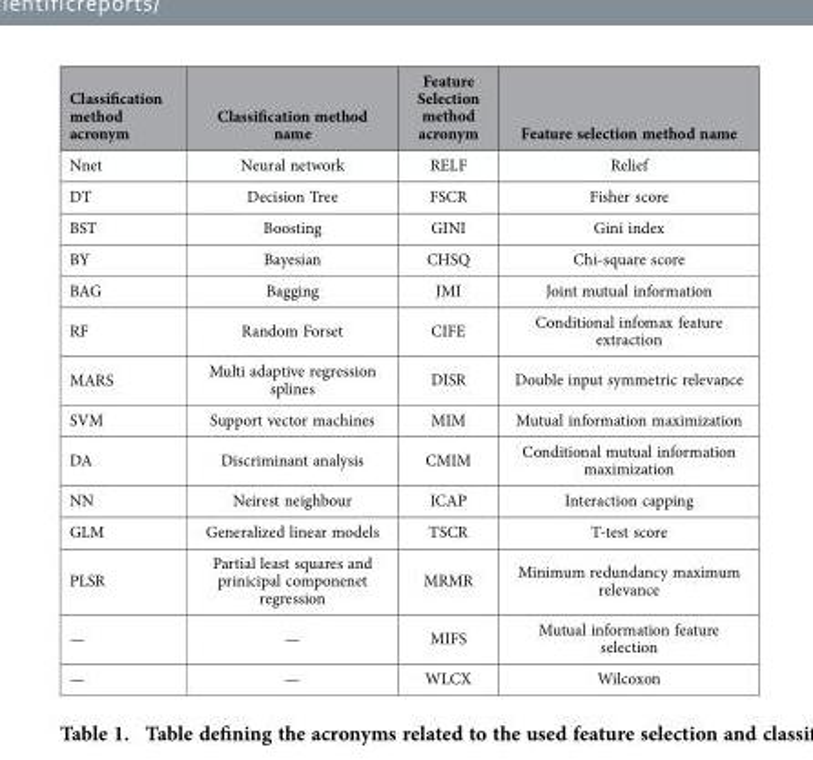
<table><thead><tr><td>Classification method acronym</td><td>Classification method name</td><td>Feature Selection method acronym</td><td>Feature selection method name</td></tr></thead><tbody><tr><td>Nnet</td><td>Neural network</td><td>RELF</td><td>Relief</td></tr><tr><td>DT</td><td>Decision Tree</td><td>FSCR</td><td>Fisher score</td></tr><tr><td>BST</td><td>Boosting</td><td>GINI</td><td>Gini index</td></tr><tr><td>BY</td><td>Bayesian</td><td>CHSQ</td><td>Chi-square score</td></tr><tr><td>BAG</td><td>Bagging</td><td>JMI</td><td>Joint mutual information</td></tr><tr><td>RF</td><td>Random Forset</td><td>CIFE</td><td>Conditional infomax feature extraction</td></tr><tr><td>MARS</td><td>Multi adaptive regression splines</td><td>DISR</td><td>Double input symmetric relevance</td></tr><tr><td>SVM</td><td>Support vector machines</td><td>MIM</td><td>Mutual information maximization</td></tr><tr><td>DA</td><td>Discriminant analysis</td><td>CMIM</td><td>Conditional mutual information maximization</td></tr><tr><td>NN</td><td>Neirest neighbour</td><td>ICAP</td><td>Interaction capping</td></tr><tr><td>GLM</td><td>Generalized linear models</td><td>TSCR</td><td>T-test score</td></tr><tr><td>PLSR</td><td>Partial least squares and prinicipal componenet regression</td><td>MRMR</td><td>Minimum redundancy maximum relevance</td></tr><tr><td>—</td><td>—</td><td>MIFS</td><td>Mutual information feature selection</td></tr><tr><td>—</td><td>—</td><td>WLCX</td><td>Wilcoxon</td></tr></tbody></table>